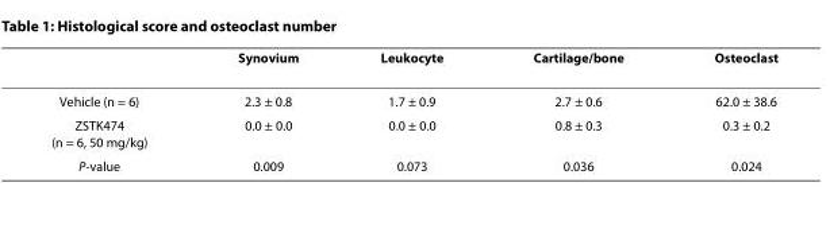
<table><thead><tr><td></td><td>Synovium</td><td>Leukocyte</td><td>Cartilage/bone</td><td>Osteoclast</td></tr></thead><tbody><tr><td>Vehicle (n = 6)</td><td>2.3 ± 0.8</td><td>1.7 ± 0.9</td><td>2.7 ± 0.6</td><td>62.0 ± 38.6</td></tr><tr><td>ZSTK474 (n = 6, 50 mg/kg)</td><td>0.0 ± 0.0</td><td>0.0 ± 0.0</td><td>0.8 ± 0.3</td><td>0.3 ± 0.2</td></tr><tr><td>P-value</td><td>0.009</td><td>0.073</td><td>0.036</td><td>0.024</td></tr></tbody></table>